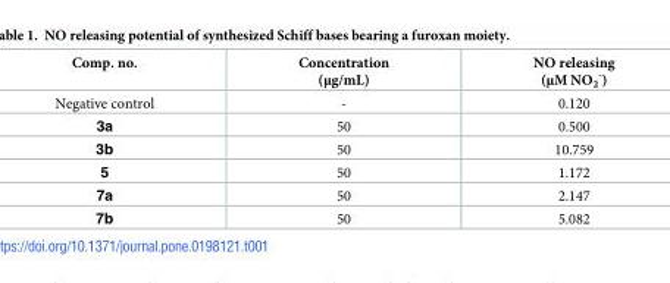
<table><thead><tr><td>Comp. no.</td><td>Concentration (μg/mL)</td><td>NO releasing (μM NO<sub>2</sub> <sup>-</sup>)</td></tr></thead><tbody><tr><td>Negative control</td><td>-</td><td>0.120</td></tr><tr><td>3a</td><td>50</td><td>0.500</td></tr><tr><td>3b</td><td>50</td><td>10.759</td></tr><tr><td>5</td><td>50</td><td>1.172</td></tr><tr><td>7a</td><td>50</td><td>2.147</td></tr><tr><td>7b</td><td>50</td><td>5.082</td></tr></tbody></table>